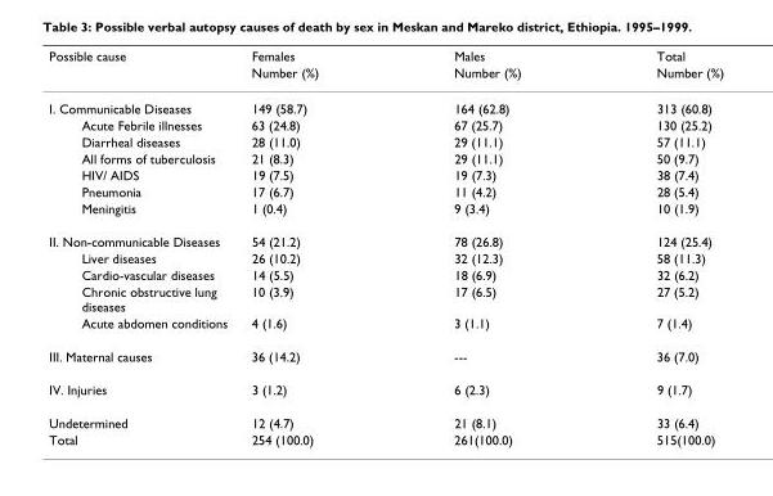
<table><thead><tr><td rowspan="2">Possible cause</td><td rowspan="2">Females Number (%)</td><td rowspan="2">Males Number (%)</td><td rowspan="2">Total Number (%)</td></tr><tr></tr></thead><tbody><tr><td>I. Communicable Diseases</td><td>149 (58.7)</td><td>164 (62.8)</td><td>313 (60.8)</td></tr><tr><td>Acute Febrile illnesses</td><td>63 (24.8)</td><td>67 (25.7)</td><td>130 (25.2)</td></tr><tr><td>Diarrheal diseases</td><td>28 (11.0)</td><td>29 (11.1)</td><td>57 (11.1)</td></tr><tr><td>All forms of tuberculosis</td><td>21 (8.3)</td><td>29 (11.1)</td><td>50 (9.7)</td></tr><tr><td>HIV/ AIDS</td><td>19 (7.5)</td><td>19 (7.3)</td><td>38 (7.4)</td></tr><tr><td>Pneumonia</td><td>17 (6.7)</td><td>11 (4.2)</td><td>28 (5.4)</td></tr><tr><td>Meningitis</td><td>1 (0.4)</td><td>9 (3.4)</td><td>10 (1.9)</td></tr><tr><td>II. Non-communicable Diseases</td><td>54 (21.2)</td><td>78 (26.8)</td><td>124 (25.4)</td></tr><tr><td>Liver diseases</td><td>26 (10.2)</td><td>32 (12.3)</td><td>58 (11.3)</td></tr><tr><td>Cardio-vascular diseases</td><td>14 (5.5)</td><td>18 (6.9)</td><td>32 (6.2)</td></tr><tr><td>Chronic obstructive lung diseases</td><td>10 (3.9)</td><td>17 (6.5)</td><td>27 (5.2)</td></tr><tr><td>Acute abdomen conditions</td><td>4 (1.6)</td><td>3 (1.1)</td><td>7 (1.4)</td></tr><tr><td>III. Maternal causes</td><td>36 (14.2)</td><td>---</td><td>36 (7.0)</td></tr><tr><td>IV. Injuries</td><td>3 (1.2)</td><td>6 (2.3)</td><td>9 (1.7)</td></tr><tr><td>Undetermined</td><td>12 (4.7)</td><td>21 (8.1)</td><td>33 (6.4)</td></tr><tr><td>Total</td><td>254 (100.0)</td><td>261(100.0)</td><td>515(100.0)</td></tr></tbody></table>